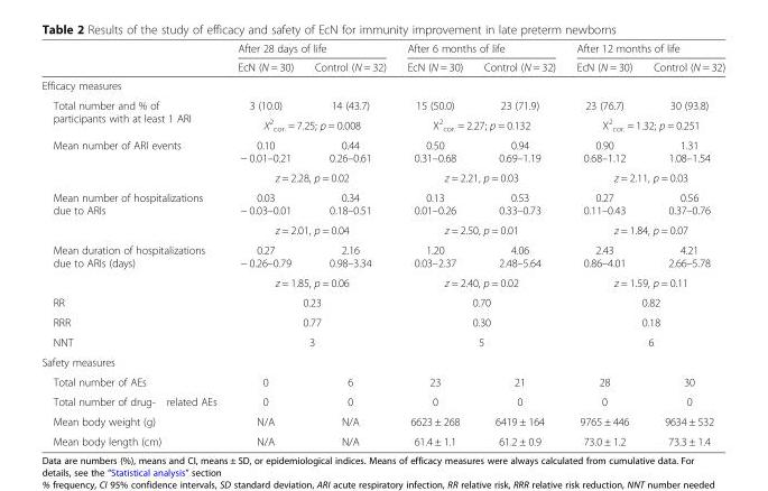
<table><thead><tr><td rowspan="2"></td><td colspan="2">After 28 days of life</td><td colspan="2">After 6 months of life</td><td colspan="2">After 12 months of life</td></tr><tr><td>EcN (N = 30)</td><td>Control (N = 32)</td><td>EcN (N = 30)</td><td>Control (N = 32)</td><td>EcN (N = 30)</td><td>Control (N = 32)</td></tr></thead><tbody><tr><td colspan="7">Efficacy measures</td></tr><tr><td rowspan="2">Total number and % of participants with at least 1 ARI</td><td>3 (10.0)</td><td>14 (43.7)</td><td>15 (50.0)</td><td>23 (71.9)</td><td>23 (76.7)</td><td>30 (93.8)</td></tr><tr><td colspan="2">Χ<sup>2</sup> <sub>cor.</sub> = 7.25; p = 0.008</td><td colspan="2">Χ<sup>2</sup> <sub>cor.</sub> = 2.27; p = 0.132</td><td colspan="2">Χ<sup>2</sup> <sub>cor.</sub> = 1.32; p = 0.251</td></tr><tr><td rowspan="2">Mean number of ARI events</td><td>0.10 − 0.01–0.21</td><td>0.44 0.26–0.61</td><td>0.50 0.31–0.68</td><td>0.94 0.69–1.19</td><td>0.90 0.68–1.12</td><td>1.31 1.08–1.54</td></tr><tr><td colspan="2">z = 2.28, p = 0.02</td><td colspan="2">z = 2.21, p = 0.03</td><td colspan="2">z = 2.11, p = 0.03</td></tr><tr><td rowspan="2">Mean number of hospitalizations due to ARIs</td><td>0.03 − 0.03–0.01</td><td>0.34 0.18–0.51</td><td>0.13 0.01–0.26</td><td>0.53 0.33–0.73</td><td>0.27 0.11–0.43</td><td>0.56 0.37–0.76</td></tr><tr><td colspan="2">z = 2.01, p = 0.04</td><td colspan="2">z = 2.50, p = 0.01</td><td colspan="2">z = 1.84, p = 0.07</td></tr><tr><td rowspan="2">Mean duration of hospitalizations due to ARIs (days)</td><td>0.27 − 0.26–0.79</td><td>2.16 0.98–3.34</td><td>1.20 0.03–2.37</td><td>4.06 2.48–5.64</td><td>2.43 0.86–4.01</td><td>4.21 2.66–5.78</td></tr><tr><td colspan="2">z = 1.85, p = 0.06</td><td colspan="2">z = 2.40, p = 0.02</td><td colspan="2">z = 1.59, p = 0.11</td></tr><tr><td>RR</td><td colspan="2">0.23</td><td colspan="2">0.70</td><td colspan="2">0.82</td></tr><tr><td>RRR</td><td colspan="2">0.77</td><td colspan="2">0.30</td><td colspan="2">0.18</td></tr><tr><td>NNT</td><td colspan="2">3</td><td colspan="2">5</td><td colspan="2">6</td></tr><tr><td colspan="7">Safety measures</td></tr><tr><td>Total number of AEs</td><td>0</td><td>6</td><td>23</td><td>21</td><td>28</td><td>30</td></tr><tr><td>Total number of drug- related AEs</td><td>0</td><td>0</td><td>0</td><td>0</td><td>0</td><td>0</td></tr><tr><td>Mean body weight (g)</td><td>N/A</td><td>N/A</td><td>6623 ± 268</td><td>6419 ± 164</td><td>9765 ± 446</td><td>9634 ± 532</td></tr><tr><td>Mean body length (cm)</td><td>N/A</td><td>N/A</td><td>61.4 ± 1.1</td><td>61.2 ± 0.9</td><td>73.0 ± 1.2</td><td>73.3 ± 1.4</td></tr></tbody></table>